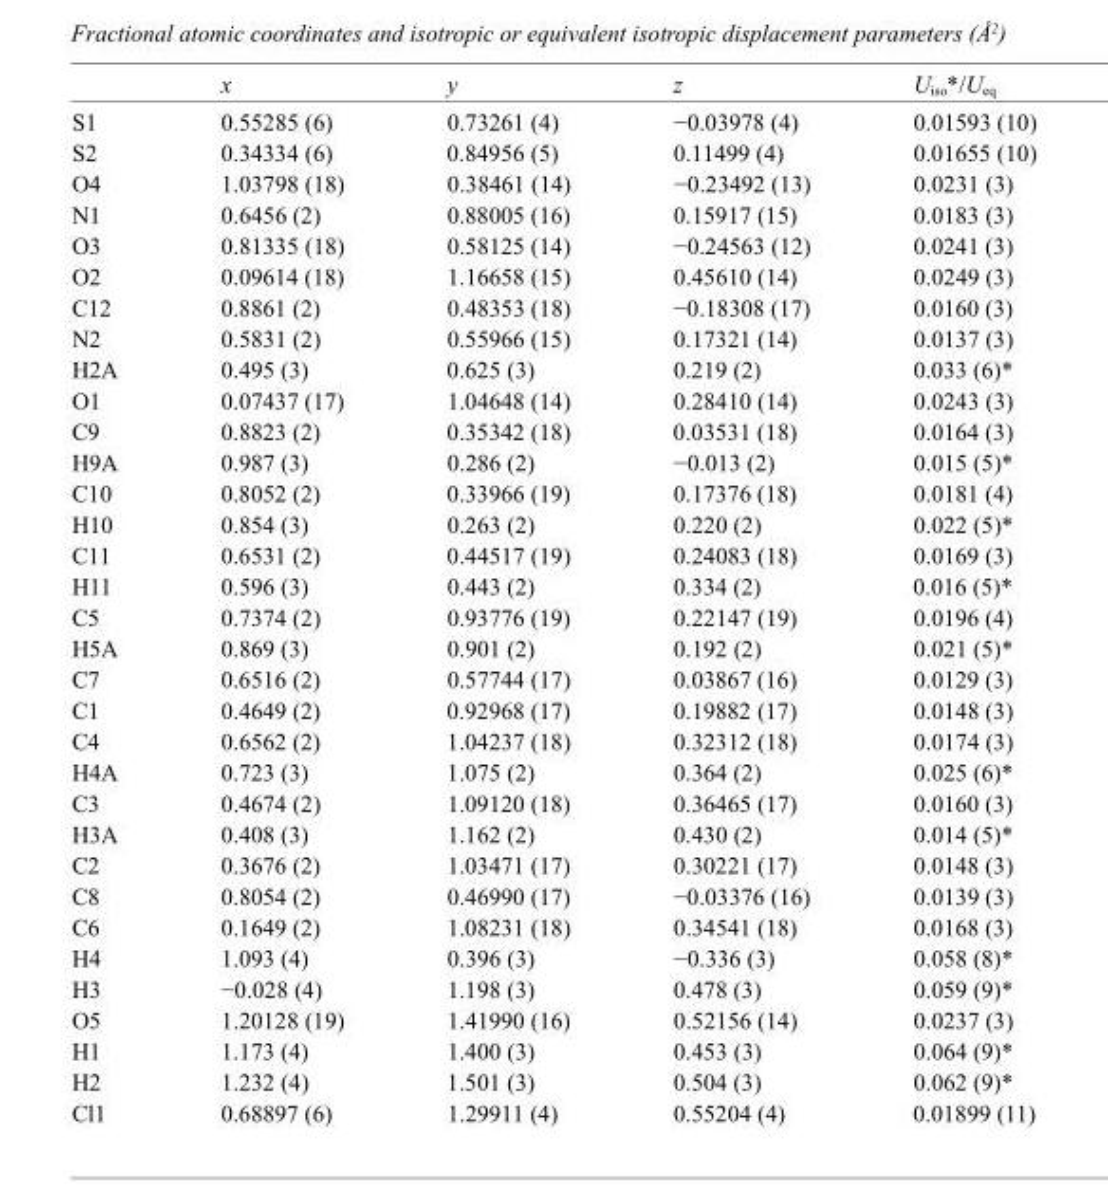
<table><thead><tr><td></td><td>x</td><td>y</td><td>z</td><td>U<sub>iso</sub>*/U<sub>eq</sub></td></tr></thead><tbody><tr><td>S1</td><td>0.55285 (6)</td><td>0.73261 (4)</td><td>−0.03978 (4)</td><td>0.01593 (10)</td></tr><tr><td>S2</td><td>0.34334 (6)</td><td>0.84956 (5)</td><td>0.11499 (4)</td><td>0.01655 (10)</td></tr><tr><td>O4</td><td>1.03798 (18)</td><td>0.38461 (14)</td><td>−0.23492 (13)</td><td>0.0231 (3)</td></tr><tr><td>N1</td><td>0.6456 (2)</td><td>0.88005 (16)</td><td>0.15917 (15)</td><td>0.0183 (3)</td></tr><tr><td>O3</td><td>0.81335 (18)</td><td>0.58125 (14)</td><td>−0.24563 (12)</td><td>0.0241 (3)</td></tr><tr><td>O2</td><td>0.09614 (18)</td><td>1.16658 (15)</td><td>0.45610 (14)</td><td>0.0249 (3)</td></tr><tr><td>C12</td><td>0.8861 (2)</td><td>0.48353 (18)</td><td>−0.18308 (17)</td><td>0.0160 (3)</td></tr><tr><td>N2</td><td>0.5831 (2)</td><td>0.55966 (15)</td><td>0.17321 (14)</td><td>0.0137 (3)</td></tr><tr><td>H2A</td><td>0.495 (3)</td><td>0.625 (3)</td><td>0.219 (2)</td><td>0.033 (6)*</td></tr><tr><td>O1</td><td>0.07437 (17)</td><td>1.04648 (14)</td><td>0.28410 (14)</td><td>0.0243 (3)</td></tr><tr><td>C9</td><td>0.8823 (2)</td><td>0.35342 (18)</td><td>0.03531 (18)</td><td>0.0164 (3)</td></tr><tr><td>H9A</td><td>0.987 (3)</td><td>0.286 (2)</td><td>−0.013 (2)</td><td>0.015 (5)*</td></tr><tr><td>C10</td><td>0.8052 (2)</td><td>0.33966 (19)</td><td>0.17376 (18)</td><td>0.0181 (4)</td></tr><tr><td>H10</td><td>0.854 (3)</td><td>0.263 (2)</td><td>0.220 (2)</td><td>0.022 (5)*</td></tr><tr><td>C11</td><td>0.6531 (2)</td><td>0.44517 (19)</td><td>0.24083 (18)</td><td>0.0169 (3)</td></tr><tr><td>H11</td><td>0.596 (3)</td><td>0.443 (2)</td><td>0.334 (2)</td><td>0.016 (5)*</td></tr><tr><td>C5</td><td>0.7374 (2)</td><td>0.93776 (19)</td><td>0.22147 (19)</td><td>0.0196 (4)</td></tr><tr><td>H5A</td><td>0.869 (3)</td><td>0.901 (2)</td><td>0.192 (2)</td><td>0.021 (5)*</td></tr><tr><td>C7</td><td>0.6516 (2)</td><td>0.57744 (17)</td><td>0.03867 (16)</td><td>0.0129 (3)</td></tr><tr><td>C1</td><td>0.4649 (2)</td><td>0.92968 (17)</td><td>0.19882 (17)</td><td>0.0148 (3)</td></tr><tr><td>C4</td><td>0.6562 (2)</td><td>1.04237 (18)</td><td>0.32312 (18)</td><td>0.0174 (3)</td></tr><tr><td>H4A</td><td>0.723 (3)</td><td>1.075 (2)</td><td>0.364 (2)</td><td>0.025 (6)*</td></tr><tr><td>C3</td><td>0.4674 (2)</td><td>1.09120 (18)</td><td>0.36465 (17)</td><td>0.0160 (3)</td></tr><tr><td>H3A</td><td>0.408 (3)</td><td>1.162 (2)</td><td>0.430 (2)</td><td>0.014 (5)*</td></tr><tr><td>C2</td><td>0.3676 (2)</td><td>1.03471 (17)</td><td>0.30221 (17)</td><td>0.0148 (3)</td></tr><tr><td>C8</td><td>0.8054 (2)</td><td>0.46990 (17)</td><td>−0.03376 (16)</td><td>0.0139 (3)</td></tr><tr><td>C6</td><td>0.1649 (2)</td><td>1.08231 (18)</td><td>0.34541 (18)</td><td>0.0168 (3)</td></tr><tr><td>H4</td><td>1.093 (4)</td><td>0.396 (3)</td><td>−0.336 (3)</td><td>0.058 (8)*</td></tr><tr><td>H3</td><td>−0.028 (4)</td><td>1.198 (3)</td><td>0.478 (3)</td><td>0.059 (9)*</td></tr><tr><td>O5</td><td>1.20128 (19)</td><td>1.41990 (16)</td><td>0.52156 (14)</td><td>0.0237 (3)</td></tr><tr><td>H1</td><td>1.173 (4)</td><td>1.400 (3)</td><td>0.453 (3)</td><td>0.064 (9)*</td></tr><tr><td>H2</td><td>1.232 (4)</td><td>1.501 (3)</td><td>0.504 (3)</td><td>0.062 (9)*</td></tr><tr><td>Cl1</td><td>0.68897 (6)</td><td>1.29911 (4)</td><td>0.55204 (4)</td><td>0.01899 (11)</td></tr></tbody></table>